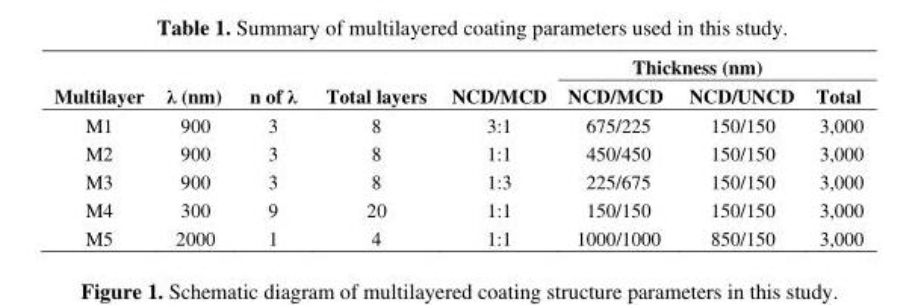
<table><thead><tr><td rowspan="2">Multilayer</td><td rowspan="2">λ (nm)</td><td rowspan="2">n of λ</td><td rowspan="2">Total layers</td><td rowspan="2">NCD/MCD</td><td colspan="3">Thickness (nm)</td></tr><tr><td>NCD/MCD</td><td>NCD/UNCD</td><td>Total</td></tr></thead><tbody><tr><td>M1</td><td>900</td><td>3</td><td>8</td><td>3:1</td><td>675/225</td><td>150/150</td><td>3,000</td></tr><tr><td>M2</td><td>900</td><td>3</td><td>8</td><td>1:1</td><td>450/450</td><td>150/150</td><td>3,000</td></tr><tr><td>M3</td><td>900</td><td>3</td><td>8</td><td>1:3</td><td>225/675</td><td>150/150</td><td>3,000</td></tr><tr><td>M4</td><td>300</td><td>9</td><td>20</td><td>1:1</td><td>150/150</td><td>150/150</td><td>3,000</td></tr><tr><td>M5</td><td>2000</td><td>1</td><td>4</td><td>1:1</td><td>1000/1000</td><td>850/150</td><td>3,000</td></tr></tbody></table>